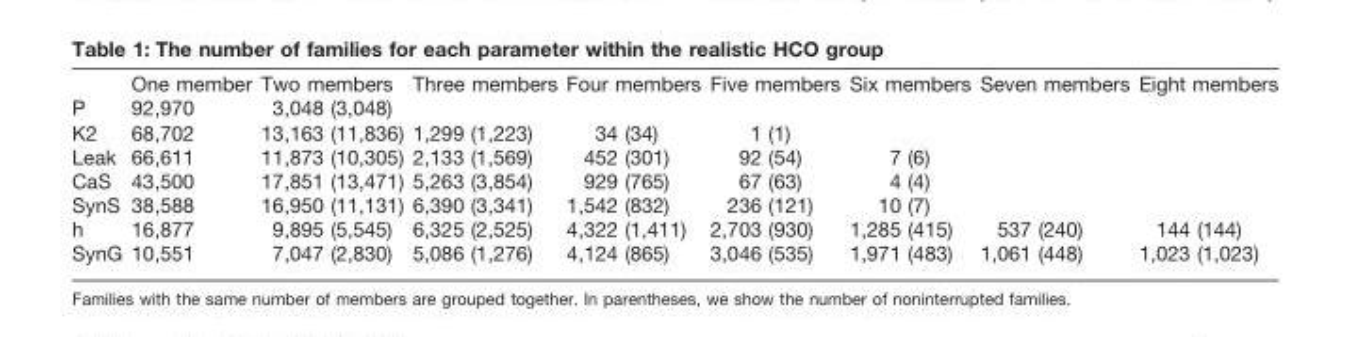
<table><thead><tr><td></td><td>One member</td><td>Two members</td><td>Three members</td><td>Four members</td><td>Five members</td><td>Six members</td><td>Seven members</td><td>Eight members</td></tr></thead><tbody><tr><td>P</td><td>92,970</td><td>3,048 (3,048)</td><td></td><td></td><td></td><td></td><td></td><td></td></tr><tr><td>K2</td><td>68,702</td><td>13,163 (11,836)</td><td>1,299 (1,223)</td><td>34 (34)</td><td>1 (1)</td><td></td><td></td><td></td></tr><tr><td>Leak</td><td>66,611</td><td>11,873 (10,305)</td><td>2,133 (1,569)</td><td>452 (301)</td><td>92 (54)</td><td>7 (6)</td><td></td><td></td></tr><tr><td>CaS</td><td>43,500</td><td>17,851 (13,471)</td><td>5,263 (3,854)</td><td>929 (765)</td><td>67 (63)</td><td>4 (4)</td><td></td><td></td></tr><tr><td>SynS</td><td>38,588</td><td>16,950 (11,131)</td><td>6,390 (3,341)</td><td>1,542 (832)</td><td>236 (121)</td><td>10 (7)</td><td></td><td></td></tr><tr><td>h</td><td>16,877</td><td>9,895 (5,545)</td><td>6,325 (2,525)</td><td>4,322 (1,411)</td><td>2,703 (930)</td><td>1,285 (415)</td><td>537 (240)</td><td>144 (144)</td></tr><tr><td>SynG</td><td>10,551</td><td>7,047 (2,830)</td><td>5,086 (1,276)</td><td>4,124 (865)</td><td>3,046 (535)</td><td>1,971 (483)</td><td>1,061 (448)</td><td>1,023 (1,023)</td></tr></tbody></table>